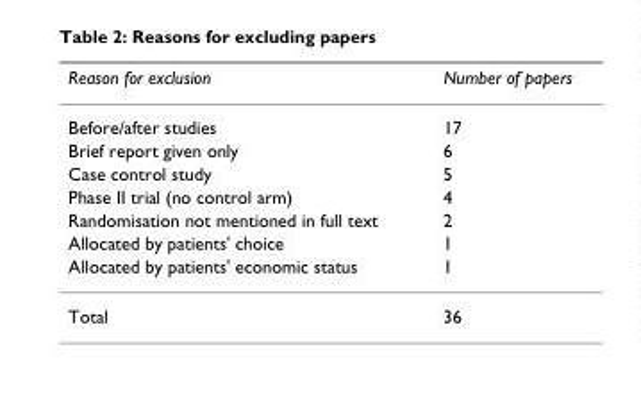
<table><thead><tr><td>Reason for exclusion</td><td>Number of papers</td></tr></thead><tbody><tr><td>Before/after studies</td><td>17</td></tr><tr><td>Brief report given only</td><td>6</td></tr><tr><td>Case control study</td><td>5</td></tr><tr><td>Phase II trial (no control arm)</td><td>4</td></tr><tr><td>Randomisation not mentioned in full text</td><td>2</td></tr><tr><td>Allocated by patients&#x27; choice</td><td>1</td></tr><tr><td>Allocated by patients&#x27; economic status</td><td>1</td></tr><tr><td>Total</td><td>36</td></tr></tbody></table>